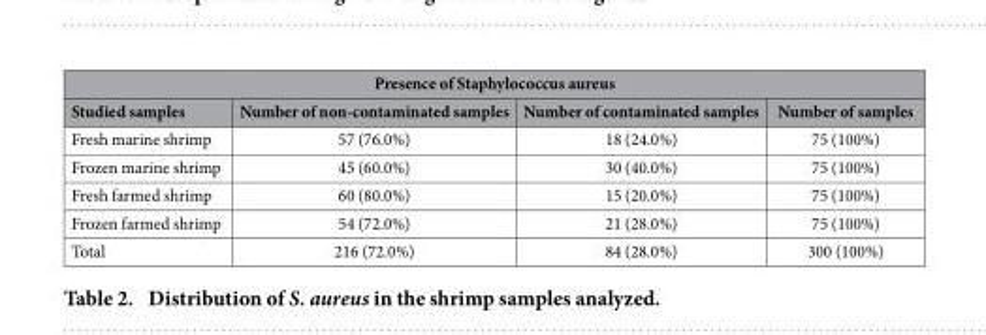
<table><thead><tr><td colspan="4">Presence of Staphylococcus aureus</td></tr><tr><td>Studied samples</td><td>Number of non-contaminated samples</td><td>Number of contaminated samples</td><td>Number of samples</td></tr></thead><tbody><tr><td>Fresh marine shrimp</td><td>57 (76.0%)</td><td>18 (24.0%)</td><td>75 (100%)</td></tr><tr><td>Frozen marine shrimp</td><td>45 (60.0%)</td><td>30 (40.0%)</td><td>75 (100%)</td></tr><tr><td>Fresh farmed shrimp</td><td>60 (80.0%)</td><td>15 (20.0%)</td><td>75 (100%)</td></tr><tr><td>Frozen farmed shrimp</td><td>54 (72.0%)</td><td>21 (28.0%)</td><td>75 (100%)</td></tr><tr><td>Total</td><td>216 (72.0%)</td><td>84 (28.0%)</td><td>300 (100%)</td></tr></tbody></table>